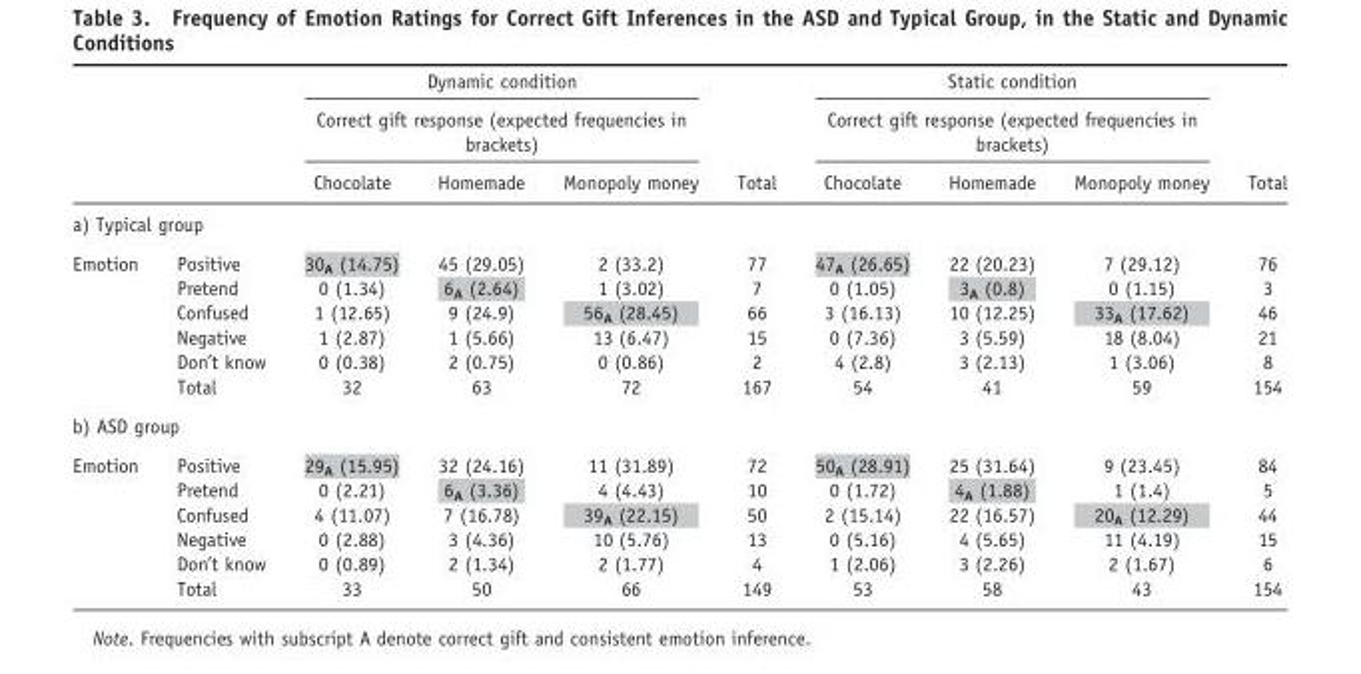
<table><thead><tr><td rowspan="3"></td><td rowspan="3"></td><td rowspan="2" colspan="3">Dynamic condition Correct gift response (expected frequencies in brackets)</td><td rowspan="3">Total</td><td rowspan="2" colspan="3">Static condition Correct gift response (expected frequencies in brackets)</td><td rowspan="3">Total</td></tr><tr></tr><tr><td>Chocolate</td><td>Homemade</td><td>Monopoly money</td><td>Chocolate</td><td>Homemade</td><td>Monopoly money</td></tr></thead><tbody><tr><td colspan="10">a) Typical group</td></tr><tr><td rowspan="6">Emotion</td><td>Positive</td><td>30<sub>A</sub> (14.75)</td><td>45 (29.05)</td><td>2 (33.2)</td><td>77</td><td>47<sub>A</sub> (26.65)</td><td>22 (20.23)</td><td>7 (29.12)</td><td>76</td></tr><tr><td>Pretend</td><td>0 (1.34)</td><td>6<sub>A</sub> (2.64)</td><td>1 (3.02)</td><td>7</td><td>0 (1.05)</td><td>3<sub>A</sub> (0.8)</td><td>0 (1.15)</td><td>3</td></tr><tr><td>Confused</td><td>1 (12.65)</td><td>9 (24.9)</td><td>56<sub>A</sub> (28.45)</td><td>66</td><td>3 (16.13)</td><td>10 (12.25)</td><td>33<sub>A</sub> (17.62)</td><td>46</td></tr><tr><td>Negative</td><td>1 (2.87)</td><td>1 (5.66)</td><td>13 (6.47)</td><td>15</td><td>0 (7.36)</td><td>3 (5.59)</td><td>18 (8.04)</td><td>21</td></tr><tr><td>Don’t know</td><td>0 (0.38)</td><td>2 (0.75)</td><td>0 (0.86)</td><td>2</td><td>4 (2.8)</td><td>3 (2.13)</td><td>1 (3.06)</td><td>8</td></tr><tr><td>Total</td><td>32</td><td>63</td><td>72</td><td>167</td><td>54</td><td>41</td><td>59</td><td>154</td></tr><tr><td colspan="10">b) ASD group</td></tr><tr><td rowspan="6">Emotion</td><td>Positive</td><td>29<sub>A</sub> (15.95)</td><td>32 (24.16)</td><td>11 (31.89)</td><td>72</td><td>50<sub>A</sub> (28.91)</td><td>25 (31.64)</td><td>9 (23.45)</td><td>84</td></tr><tr><td>Pretend</td><td>0 (2.21)</td><td>6<sub>A</sub> (3.36)</td><td>4 (4.43)</td><td>10</td><td>0 (1.72)</td><td>4<sub>A</sub> (1.88)</td><td>1 (1.4)</td><td>5</td></tr><tr><td>Confused</td><td>4 (11.07)</td><td>7 (16.78)</td><td>39<sub>A</sub> (22.15)</td><td>50</td><td>2 (15.14)</td><td>22 (16.57)</td><td>20<sub>A</sub> (12.29)</td><td>44</td></tr><tr><td>Negative</td><td>0 (2.88)</td><td>3 (4.36)</td><td>10 (5.76)</td><td>13</td><td>0 (5.16)</td><td>4 (5.65)</td><td>11 (4.19)</td><td>15</td></tr><tr><td>Don’t know</td><td>0 (0.89)</td><td>2 (1.34)</td><td>2 (1.77)</td><td>4</td><td>1 (2.06)</td><td>3 (2.26)</td><td>2 (1.67)</td><td>6</td></tr><tr><td>Total</td><td>33</td><td>50</td><td>66</td><td>149</td><td>53</td><td>58</td><td>43</td><td>154</td></tr></tbody></table>